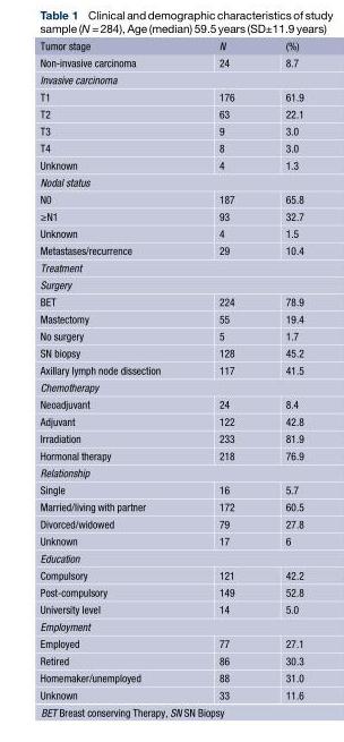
<table><thead><tr><td>Tumor stage</td><td>N</td><td>(%)</td></tr></thead><tbody><tr><td>Non-invasive carcinoma</td><td>24</td><td>8.7</td></tr><tr><td colspan="3">Invasive carcinoma</td></tr><tr><td>T1</td><td>176</td><td>61.9</td></tr><tr><td>T2</td><td>63</td><td>22.1</td></tr><tr><td>T3</td><td>9</td><td>3.0</td></tr><tr><td>T4</td><td>8</td><td>3.0</td></tr><tr><td>Unknown</td><td>4</td><td>1.3</td></tr><tr><td colspan="3">Nodal status</td></tr><tr><td>N0</td><td>187</td><td>65.8</td></tr><tr><td>≥N1</td><td>93</td><td>32.7</td></tr><tr><td>Unknown</td><td>4</td><td>1.5</td></tr><tr><td>Metastases/recurrence</td><td>29</td><td>10.4</td></tr><tr><td colspan="3">Treatment</td></tr><tr><td colspan="3">Surgery</td></tr><tr><td>BET</td><td>224</td><td>78.9</td></tr><tr><td>Mastectomy</td><td>55</td><td>19.4</td></tr><tr><td>No surgery</td><td>5</td><td>1.7</td></tr><tr><td>SN biopsy</td><td>128</td><td>45.2</td></tr><tr><td>Axillary lymph node dissection</td><td>117</td><td>41.5</td></tr><tr><td colspan="3">Chemotherapy</td></tr><tr><td>Neoadjuvant</td><td>24</td><td>8.4</td></tr><tr><td>Adjuvant</td><td>122</td><td>42.8</td></tr><tr><td>Irradiation</td><td>233</td><td>81.9</td></tr><tr><td>Hormonal therapy</td><td>218</td><td>76.9</td></tr><tr><td colspan="3">Relationship</td></tr><tr><td>Single</td><td>16</td><td>5.7</td></tr><tr><td>Married/living with partner</td><td>172</td><td>60.5</td></tr><tr><td>Divorced/widowed</td><td>79</td><td>27.8</td></tr><tr><td>Unknown</td><td>17</td><td>6</td></tr><tr><td colspan="3">Education</td></tr><tr><td>Compulsory</td><td>121</td><td>42.2</td></tr><tr><td>Post-compulsory</td><td>149</td><td>52.8</td></tr><tr><td>University level</td><td>14</td><td>5.0</td></tr><tr><td colspan="3">Employment</td></tr><tr><td>Employed</td><td>77</td><td>27.1</td></tr><tr><td>Retired</td><td>86</td><td>30.3</td></tr><tr><td>Homemaker/unemployed</td><td>88</td><td>31.0</td></tr><tr><td>Unknown</td><td>33</td><td>11.6</td></tr></tbody></table>